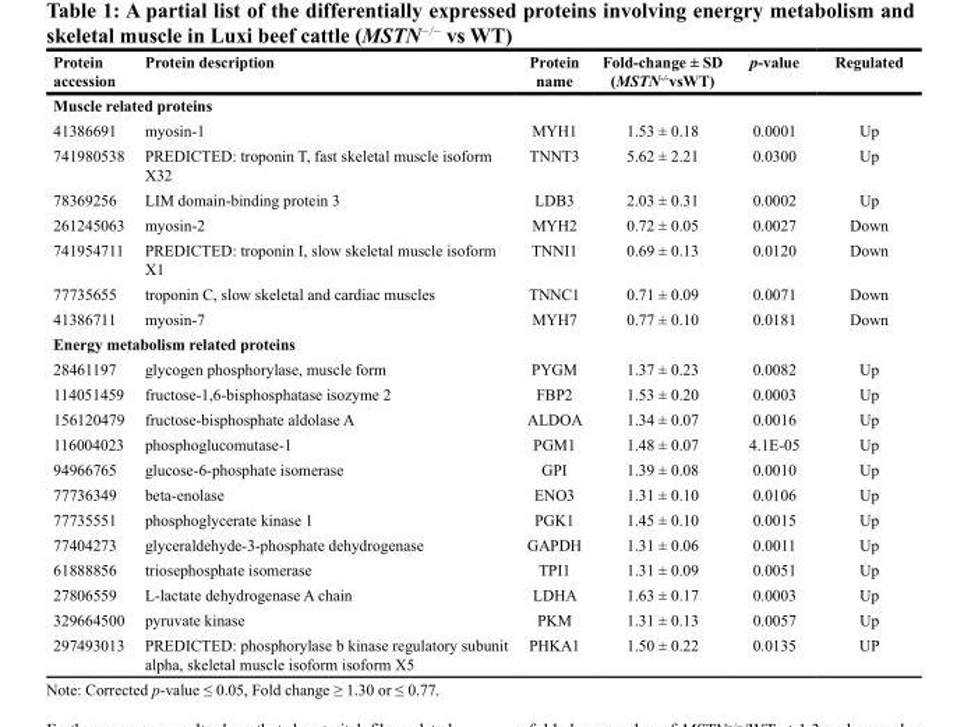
<table><thead><tr><td>Protein accession</td><td>Protein description</td><td>Protein name</td><td>Fold-change ± SD (MSTN<sup>-/-</sup>vsWT)</td><td>p-value</td><td>Regulated</td></tr></thead><tbody><tr><td colspan="6">Muscle related proteins</td></tr><tr><td>41386691</td><td>myosin-1</td><td>MYH1</td><td>1.53 ± 0.18</td><td>0.0001</td><td>Up</td></tr><tr><td>741980538</td><td>PREDICTED: troponin T, fast skeletal muscle isoform X32</td><td>TNNT3</td><td>5.62 ± 2.21</td><td>0.0300</td><td>Up</td></tr><tr><td>78369256</td><td>LIM domain-binding protein 3</td><td>LDB3</td><td>2.03 ± 0.31</td><td>0.0002</td><td>Up</td></tr><tr><td>261245063</td><td>myosin-2</td><td>MYH2</td><td>0.72 ± 0.05</td><td>0.0027</td><td>Down</td></tr><tr><td>741954711</td><td>PREDICTED: troponin I, slow skeletal muscle isoform X1</td><td>TNNI1</td><td>0.69 ± 0.13</td><td>0.0120</td><td>Down</td></tr><tr><td>77735655</td><td>troponin C, slow skeletal and cardiac muscles</td><td>TNNC1</td><td>0.71 ± 0.09</td><td>0.0071</td><td>Down</td></tr><tr><td>41386711</td><td>myosin-7</td><td>MYH7</td><td>0.77 ± 0.10</td><td>0.0181</td><td>Down</td></tr><tr><td colspan="6">Energy metabolism related proteins</td></tr><tr><td>28461197</td><td>glycogen phosphorylase, muscle form</td><td>PYGM</td><td>1.37 ± 0.23</td><td>0.0082</td><td>Up</td></tr><tr><td>114051459</td><td>fructose-1,6-bisphosphatase isozyme 2</td><td>FBP2</td><td>1.53 ± 0.20</td><td>0.0003</td><td>Up</td></tr><tr><td>156120479</td><td>fructose-bisphosphate aldolase A</td><td>ALDOA</td><td>1.34 ± 0.07</td><td>0.0016</td><td>Up</td></tr><tr><td>116004023</td><td>phosphoglucomutase-1</td><td>PGM1</td><td>1.48 ± 0.07</td><td>4.1E-05</td><td>Up</td></tr><tr><td>94966765</td><td>glucose-6-phosphate isomerase</td><td>GPI</td><td>1.39 ± 0.08</td><td>0.0010</td><td>Up</td></tr><tr><td>77736349</td><td>beta-enolase</td><td>ENO3</td><td>1.31 ± 0.10</td><td>0.0106</td><td>Up</td></tr><tr><td>77735551</td><td>phosphoglycerate kinase 1</td><td>PGK1</td><td>1.45 ± 0.10</td><td>0.0015</td><td>Up</td></tr><tr><td>77404273</td><td>glyceraldehyde-3-phosphate dehydrogenase</td><td>GAPDH</td><td>1.31 ± 0.06</td><td>0.0011</td><td>Up</td></tr><tr><td>61888856</td><td>triosephosphate isomerase</td><td>TPI1</td><td>1.31 ± 0.09</td><td>0.0051</td><td>Up</td></tr><tr><td>27806559</td><td>L-lactate dehydrogenase A chain</td><td>LDHA</td><td>1.63 ± 0.17</td><td>0.0003</td><td>Up</td></tr><tr><td>329664500</td><td>pyruvate kinase</td><td>PKM</td><td>1.31 ± 0.13</td><td>0.0057</td><td>Up</td></tr><tr><td>297493013</td><td>PREDICTED: phosphorylase b kinase regulatory subunit alpha, skeletal muscle isoform isoform X5</td><td>PHKA1</td><td>1.50 ± 0.22</td><td>0.0135</td><td>UP</td></tr></tbody></table>